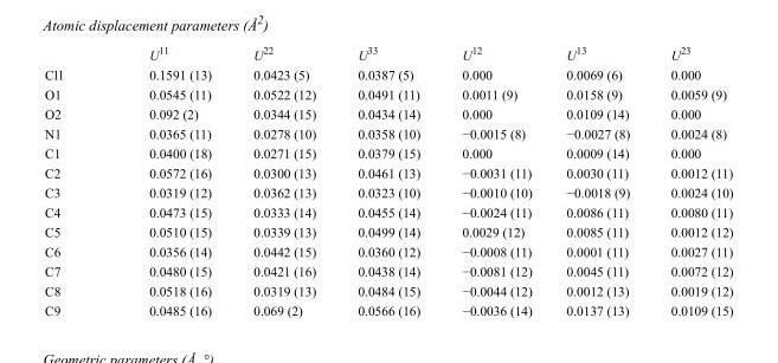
<table><thead><tr><td></td><td>U<sup>11</sup></td><td>U<sup>22</sup></td><td>U<sup>33</sup></td><td>U<sup>12</sup></td><td>U<sup>13</sup></td><td>U<sup>23</sup></td></tr></thead><tbody><tr><td>Cl1</td><td>0.1591 (13)</td><td>0.0423 (5)</td><td>0.0387 (5)</td><td>0.000</td><td>0.0069 (6)</td><td>0.000</td></tr><tr><td>O1</td><td>0.0545 (11)</td><td>0.0522 (12)</td><td>0.0491 (11)</td><td>0.0011 (9)</td><td>0.0158 (9)</td><td>0.0059 (9)</td></tr><tr><td>O2</td><td>0.092 (2)</td><td>0.0344 (15)</td><td>0.0434 (14)</td><td>0.000</td><td>0.0109 (14)</td><td>0.000</td></tr><tr><td>N1</td><td>0.0365 (11)</td><td>0.0278 (10)</td><td>0.0358 (10)</td><td>−0.0015 (8)</td><td>−0.0027 (8)</td><td>0.0024 (8)</td></tr><tr><td>C1</td><td>0.0400 (18)</td><td>0.0271 (15)</td><td>0.0379 (15)</td><td>0.000</td><td>0.0009 (14)</td><td>0.000</td></tr><tr><td>C2</td><td>0.0572 (16)</td><td>0.0300 (13)</td><td>0.0461 (13)</td><td>−0.0031 (11)</td><td>0.0030 (11)</td><td>0.0012 (11)</td></tr><tr><td>C3</td><td>0.0319 (12)</td><td>0.0362 (13)</td><td>0.0323 (10)</td><td>−0.0010 (10)</td><td>−0.0018 (9)</td><td>0.0024 (10)</td></tr><tr><td>C4</td><td>0.0473 (15)</td><td>0.0333 (14)</td><td>0.0455 (14)</td><td>−0.0024 (11)</td><td>0.0086 (11)</td><td>0.0080 (11)</td></tr><tr><td>C5</td><td>0.0510 (15)</td><td>0.0339 (13)</td><td>0.0499 (14)</td><td>0.0029 (12)</td><td>0.0085 (11)</td><td>0.0012 (12)</td></tr><tr><td>C6</td><td>0.0356 (14)</td><td>0.0442 (15)</td><td>0.0360 (12)</td><td>−0.0008 (11)</td><td>0.0001 (11)</td><td>0.0027 (11)</td></tr><tr><td>C7</td><td>0.0480 (15)</td><td>0.0421 (16)</td><td>0.0438 (14)</td><td>−0.0081 (12)</td><td>0.0045 (11)</td><td>0.0072 (12)</td></tr><tr><td>C8</td><td>0.0518 (16)</td><td>0.0319 (13)</td><td>0.0484 (15)</td><td>−0.0044 (12)</td><td>0.0012 (13)</td><td>0.0019 (12)</td></tr><tr><td>C9</td><td>0.0485 (16)</td><td>0.069 (2)</td><td>0.0566 (16)</td><td>−0.0036 (14)</td><td>0.0137 (13)</td><td>0.0109 (15)</td></tr></tbody></table>